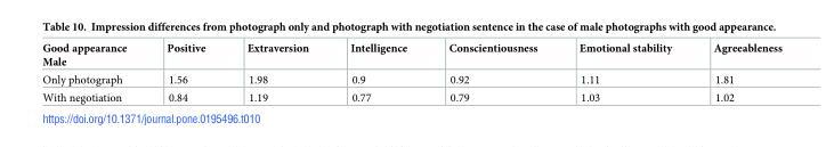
<table><thead><tr><td>Good appearance Male</td><td>Positive</td><td>Extraversion</td><td>Intelligence</td><td>Conscientiousness</td><td>Emotional stability</td><td>Agreeableness</td></tr></thead><tbody><tr><td>Only photograph</td><td>1.56</td><td>1.98</td><td>0.9</td><td>0.92</td><td>1.11</td><td>1.81</td></tr><tr><td>With negotiation</td><td>0.84</td><td>1.19</td><td>0.77</td><td>0.79</td><td>1.03</td><td>1.02</td></tr></tbody></table>